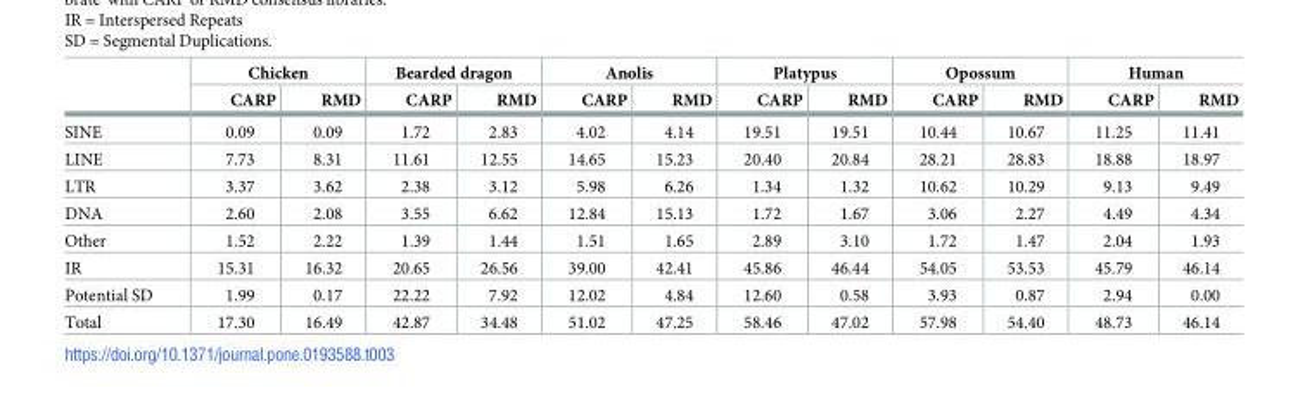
<table><thead><tr><td rowspan="2"></td><td colspan="2">Chicken</td><td colspan="2">Bearded dragon</td><td colspan="2">Anolis</td><td colspan="2">Platypus</td><td colspan="2">Opossum</td><td colspan="2">Human</td></tr><tr><td>CARP</td><td>RMD</td><td>CARP</td><td>RMD</td><td>CARP</td><td>RMD</td><td>CARP</td><td>RMD</td><td>CARP</td><td>RMD</td><td>CARP</td><td>RMD</td></tr></thead><tbody><tr><td>SINE</td><td>0.09</td><td>0.09</td><td>1.72</td><td>2.83</td><td>4.02</td><td>4.14</td><td>19.51</td><td>19.51</td><td>10.44</td><td>10.67</td><td>11.25</td><td>11.41</td></tr><tr><td>LINE</td><td>7.73</td><td>8.31</td><td>11.61</td><td>12.55</td><td>14.65</td><td>15.23</td><td>20.40</td><td>20.84</td><td>28.21</td><td>28.83</td><td>18.88</td><td>18.97</td></tr><tr><td>LTR</td><td>3.37</td><td>3.62</td><td>2.38</td><td>3.12</td><td>5.98</td><td>6.26</td><td>1.34</td><td>1.32</td><td>10.62</td><td>10.29</td><td>9.13</td><td>9.49</td></tr><tr><td>DNA</td><td>2.60</td><td>2.08</td><td>3.55</td><td>6.62</td><td>12.84</td><td>15.13</td><td>1.72</td><td>1.67</td><td>3.06</td><td>2.27</td><td>4.49</td><td>4.34</td></tr><tr><td>Other</td><td>1.52</td><td>2.22</td><td>1.39</td><td>1.44</td><td>1.51</td><td>1.65</td><td>2.89</td><td>3.10</td><td>1.72</td><td>1.47</td><td>2.04</td><td>1.93</td></tr><tr><td>IR</td><td>15.31</td><td>16.32</td><td>20.65</td><td>26.56</td><td>39.00</td><td>42.41</td><td>45.86</td><td>46.44</td><td>54.05</td><td>53.53</td><td>45.79</td><td>46.14</td></tr><tr><td>Potential SD</td><td>1.99</td><td>0.17</td><td>22.22</td><td>7.92</td><td>12.02</td><td>4.84</td><td>12.60</td><td>0.58</td><td>3.93</td><td>0.87</td><td>2.94</td><td>0.00</td></tr><tr><td>Total</td><td>17.30</td><td>16.49</td><td>42.87</td><td>34.48</td><td>51.02</td><td>47.25</td><td>58.46</td><td>47.02</td><td>57.98</td><td>54.40</td><td>48.73</td><td>46.14</td></tr></tbody></table>